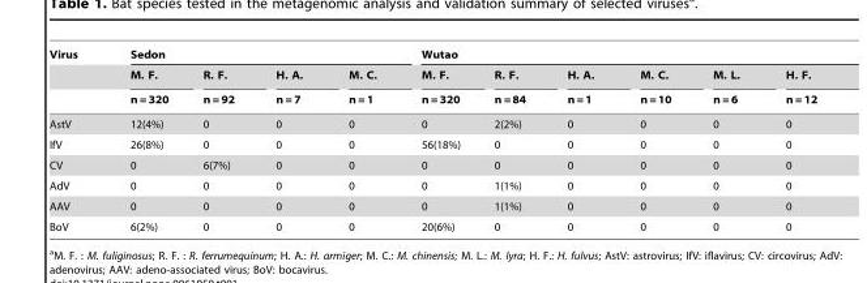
<table><thead><tr><td rowspan="3">Virus</td><td rowspan="3">Sedon M. F. n = 320</td><td rowspan="3">R. F. n = 92</td><td rowspan="3">H. A. n = 7</td><td rowspan="3">M. C. n = 1</td><td rowspan="3">Wutao M. F. n = 320</td><td rowspan="3">R. F. n = 84</td><td rowspan="3">H. A. n = 1</td><td rowspan="3">M. C. n = 10</td><td rowspan="3">M. L. n = 6</td><td rowspan="3">H. F. n = 12</td></tr><tr></tr><tr></tr></thead><tbody><tr><td>AstV</td><td>12(4%)</td><td>0</td><td>0</td><td>0</td><td>0</td><td>2(2%)</td><td>0</td><td>0</td><td>0</td><td>0</td></tr><tr><td>IfV</td><td>26(8%)</td><td>0</td><td>0</td><td>0</td><td>56(18%)</td><td>0</td><td>0</td><td>0</td><td>0</td><td>0</td></tr><tr><td>CV</td><td>0</td><td>6(7%)</td><td>0</td><td>0</td><td>0</td><td>0</td><td>0</td><td>0</td><td>0</td><td>0</td></tr><tr><td>AdV</td><td>0</td><td>0</td><td>0</td><td>0</td><td>0</td><td>1(1%)</td><td>0</td><td>0</td><td>0</td><td>0</td></tr><tr><td>AAV</td><td>0</td><td>0</td><td>0</td><td>0</td><td>0</td><td>1(1%)</td><td>0</td><td>0</td><td>0</td><td>0</td></tr><tr><td>BoV</td><td>6(2%)</td><td>0</td><td>0</td><td>0</td><td>20(6%)</td><td>0</td><td>0</td><td>0</td><td>0</td><td>0</td></tr></tbody></table>